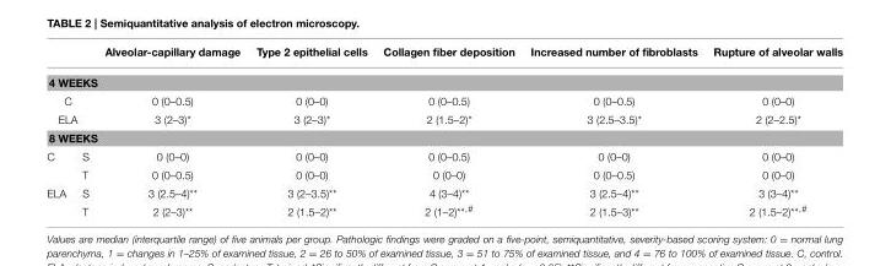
<table><thead><tr><td></td><td></td><td>Alveolar-capillary damage</td><td>Type 2 epithelial cells</td><td>Collagen fiber deposition</td><td>Increased number of fibroblasts</td><td>Rupture of alveolar walls</td></tr></thead><tbody><tr><td colspan="7">4 WEEKS</td></tr><tr><td colspan="2">C</td><td>0 (0–0.5)</td><td>0 (0–0)</td><td>0 (0–0.5)</td><td>0 (0–0.5)</td><td>0 (0–0)</td></tr><tr><td colspan="2">ELA</td><td>3 (2–3)*</td><td>3 (2–3)*</td><td>2 (1.5–2)*</td><td>3 (2.5–3.5)*</td><td>2 (2–2.5)*</td></tr><tr><td colspan="7">8 WEEKS</td></tr><tr><td rowspan="2">C</td><td>S</td><td>0 (0–0)</td><td>0 (0–0)</td><td>0 (0–0.5)</td><td>0 (0–0)</td><td>0 (0–0)</td></tr><tr><td>T</td><td>0 (0–0.5)</td><td>0 (0–0)</td><td>0 (0–0)</td><td>0 (0–0.5)</td><td>0 (0–0)</td></tr><tr><td rowspan="2">ELA</td><td>S</td><td>3 (2.5–4)**</td><td>3 (2–3.5)**</td><td>4 (3–4)**</td><td>3 (2.5–4)**</td><td>3 (3–4)**</td></tr><tr><td>T</td><td>2 (2–3)**</td><td>2 (1.5–2)**</td><td>2 (1–2)<sup>**,#</sup></td><td>2 (1.5–3)**</td><td>2 (1.5–2)<sup>**,#</sup></td></tr></tbody></table>